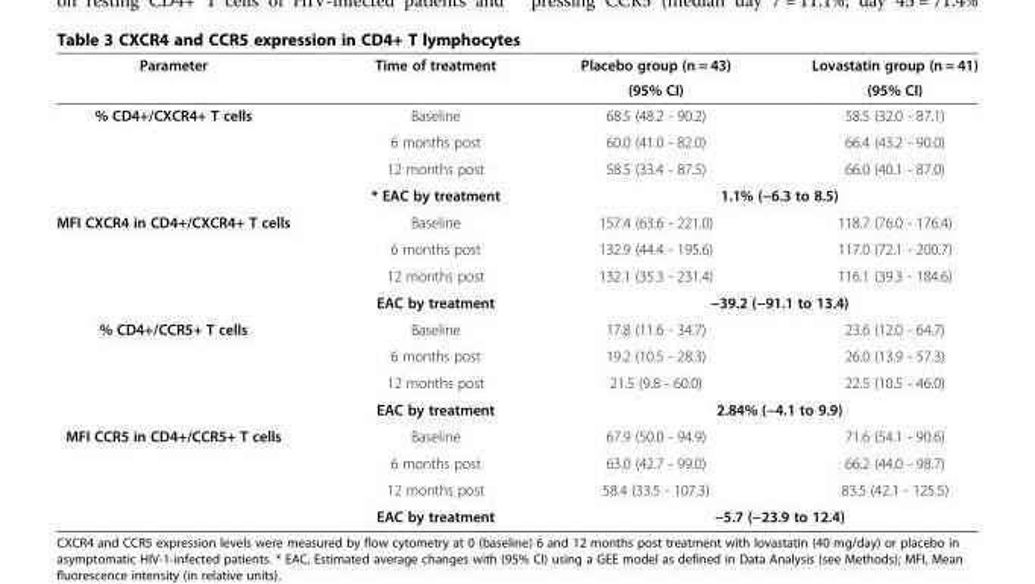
<table><thead><tr><td rowspan="2">Parameter</td><td rowspan="2">Time of treatment</td><td rowspan="2">Placebo group (n = 43) (95% CI)</td><td rowspan="2">Lovastatin group (n = 41) (95% CI)</td></tr><tr></tr></thead><tbody><tr><td rowspan="4">% CD4+/CXCR4+ T cells</td><td>Baseline</td><td>68.5 (48.2 - 90.2)</td><td>58.5 (32.0 - 87.1)</td></tr><tr><td>6 months post</td><td>60.0 (41.0 - 82.0)</td><td>66.4 (43.2 - 90.0)</td></tr><tr><td>12 months post</td><td>58.5 (33.4 - 87.5)</td><td>66.0 (40.1 - 87.0)</td></tr><tr><td>* EAC by treatment</td><td colspan="2">1.1% (−6.3 to 8.5)</td></tr><tr><td rowspan="4">MFI CXCR4 in CD4+/CXCR4+ T cells</td><td>Baseline</td><td>157.4 (63.6 - 221.0)</td><td>118.7 (76.0 - 176.4)</td></tr><tr><td>6 months post</td><td>132.9 (44.4 - 195.6)</td><td>117.0 (72.1 - 200.7)</td></tr><tr><td>12 months post</td><td>132.1 (35.3 - 231.4)</td><td>116.1 (39.3 - 184.6)</td></tr><tr><td>EAC by treatment</td><td colspan="2">−39.2 (−91.1 to 13.4)</td></tr><tr><td rowspan="4">% CD4+/CCR5+ T cells</td><td>Baseline</td><td>17.8 (11.6 - 34.7)</td><td>23.6 (12.0 - 64.7)</td></tr><tr><td>6 months post</td><td>19.2 (10.5 - 28.3)</td><td>26.0 (13.9 - 57.3)</td></tr><tr><td>12 months post</td><td>21.5 (9.8 - 60.0)</td><td>22.5 (10.5 - 46.0)</td></tr><tr><td>EAC by treatment</td><td colspan="2">2.84% (−4.1 to 9.9)</td></tr><tr><td rowspan="4">MFI CCR5 in CD4+/CCR5+ T cells</td><td>Baseline</td><td>67.9 (50.0 - 94.9)</td><td>71.6 (54.1 - 90.6)</td></tr><tr><td>6 months post</td><td>63.0 (42.7 - 99.0)</td><td>66.2 (44.0 - 98.7)</td></tr><tr><td>12 months post</td><td>58.4 (33.5 - 107.3)</td><td>83.5 (42.1 - 125.5)</td></tr><tr><td>EAC by treatment</td><td colspan="2">−5.7 (−23.9 to 12.4)</td></tr></tbody></table>